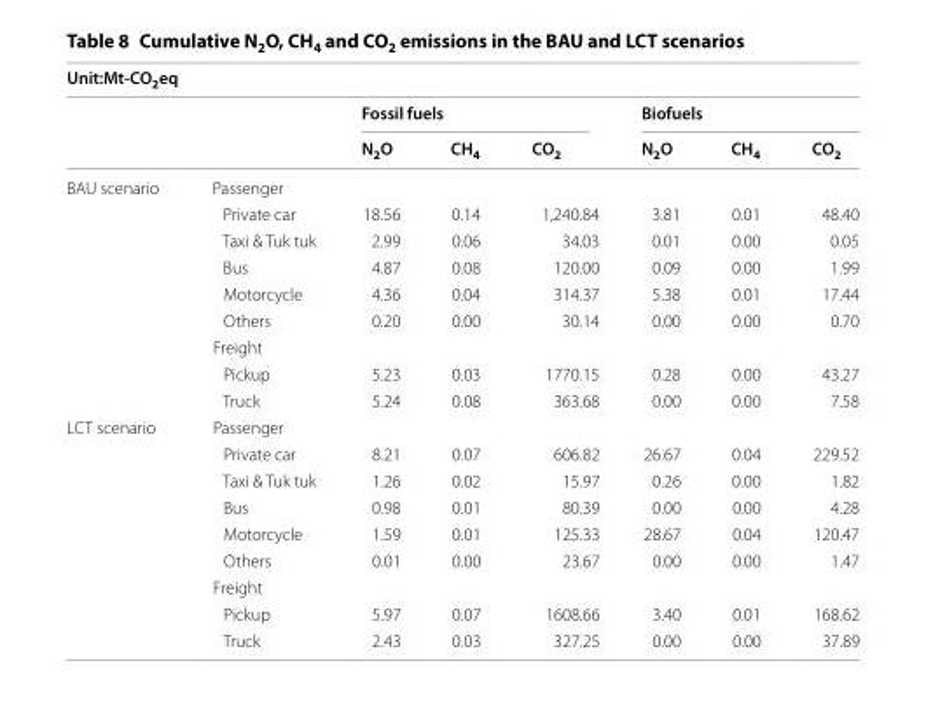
<table><thead><tr><td colspan="8">Unit:Mt-CO<sub>2</sub>eq</td></tr><tr><td rowspan="2"></td><td rowspan="2"></td><td colspan="3">Fossil fuels</td><td colspan="3">Biofuels</td></tr><tr><td>N<sub>2</sub>O</td><td>CH<sub>4</sub></td><td>CO<sub>2</sub></td><td>N<sub>2</sub>O</td><td>CH<sub>4</sub></td><td>CO<sub>2</sub></td></tr></thead><tbody><tr><td rowspan="9">BAU scenario</td><td colspan="7">Passenger</td></tr><tr><td>Private car</td><td>18.56</td><td>0.14</td><td>1,240.84</td><td>3.81</td><td>0.01</td><td>48.40</td></tr><tr><td>Taxi &amp; Tuk tuk</td><td>2.99</td><td>0.06</td><td>34.03</td><td>0.01</td><td>0.00</td><td>0.05</td></tr><tr><td>Bus</td><td>4.87</td><td>0.08</td><td>120.00</td><td>0.09</td><td>0.00</td><td>1.99</td></tr><tr><td>Motorcycle</td><td>4.36</td><td>0.04</td><td>314.37</td><td>5.38</td><td>0.01</td><td>17.44</td></tr><tr><td>Others</td><td>0.20</td><td>0.00</td><td>30.14</td><td>0.00</td><td>0.00</td><td>0.70</td></tr><tr><td colspan="7">Freight</td></tr><tr><td>Pickup</td><td>5.23</td><td>0.03</td><td>1770.15</td><td>0.28</td><td>0.00</td><td>43.27</td></tr><tr><td>Truck</td><td>5.24</td><td>0.08</td><td>363.68</td><td>0.00</td><td>0.00</td><td>7.58</td></tr><tr><td rowspan="9">LCT scenario</td><td colspan="7">Passenger</td></tr><tr><td>Private car</td><td>8.21</td><td>0.07</td><td>606.82</td><td>26.67</td><td>0.04</td><td>229.52</td></tr><tr><td>Taxi &amp; Tuk tuk</td><td>1.26</td><td>0.02</td><td>15.97</td><td>0.26</td><td>0.00</td><td>1.82</td></tr><tr><td>Bus</td><td>0.98</td><td>0.01</td><td>80.39</td><td>0.00</td><td>0.00</td><td>4.28</td></tr><tr><td>Motorcycle</td><td>1.59</td><td>0.01</td><td>125.33</td><td>28.67</td><td>0.04</td><td>120.47</td></tr><tr><td>Others</td><td>0.01</td><td>0.00</td><td>23.67</td><td>0.00</td><td>0.00</td><td>1.47</td></tr><tr><td colspan="7">Freight</td></tr><tr><td>Pickup</td><td>5.97</td><td>0.07</td><td>1608.66</td><td>3.40</td><td>0.01</td><td>168.62</td></tr><tr><td>Truck</td><td>2.43</td><td>0.03</td><td>327.25</td><td>0.00</td><td>0.00</td><td>37.89</td></tr></tbody></table>